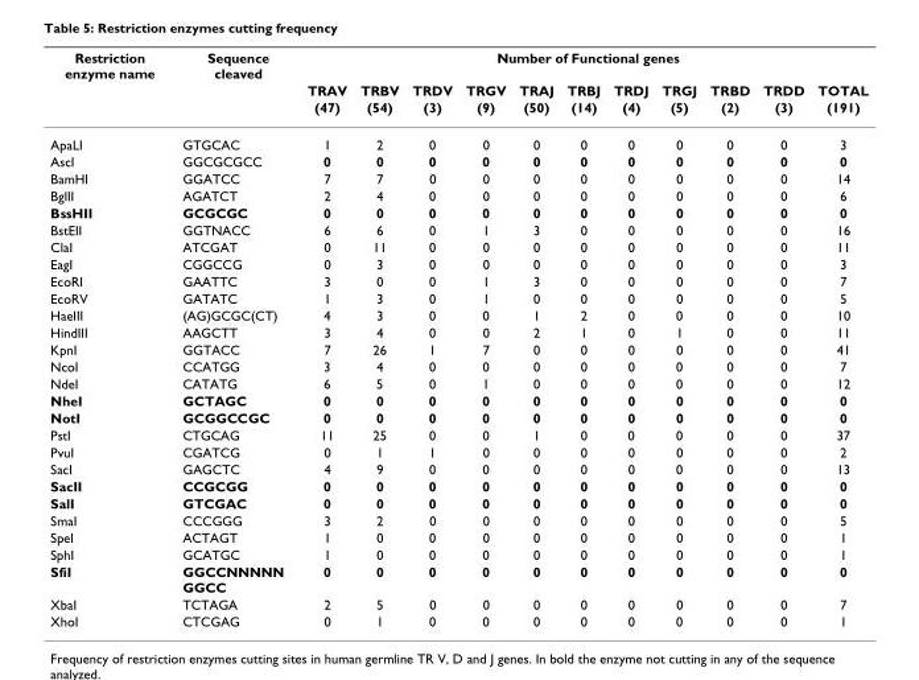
<table><thead><tr><td rowspan="3">Restriction enzyme name</td><td rowspan="3">Sequence cleaved</td><td colspan="11">Number of Functional genes</td></tr><tr><td rowspan="2">TRAV (47)</td><td rowspan="2">TRBV (54)</td><td rowspan="2">TRDV (3)</td><td rowspan="2">TRGV (9)</td><td rowspan="2">TRAJ (50)</td><td rowspan="2">TRBJ (14)</td><td rowspan="2">TRDJ (4)</td><td rowspan="2">TRGJ (5)</td><td rowspan="2">TRBD (2)</td><td rowspan="2">TRDD (3)</td><td rowspan="2">TOTAL (191)</td></tr><tr></tr></thead><tbody><tr><td>ApaLI</td><td>GTGCAC</td><td>1</td><td>2</td><td>0</td><td>0</td><td>0</td><td>0</td><td>0</td><td>0</td><td>0</td><td>0</td><td>3</td></tr><tr><td>AscI</td><td>GGCGCGCC</td><td>0</td><td>0</td><td>0</td><td>0</td><td>0</td><td>0</td><td>0</td><td>0</td><td>0</td><td>0</td><td>0</td></tr><tr><td>BamHI</td><td>GGATCC</td><td>7</td><td>7</td><td>0</td><td>0</td><td>0</td><td>0</td><td>0</td><td>0</td><td>0</td><td>0</td><td>14</td></tr><tr><td>BglII</td><td>AGATCT</td><td>2</td><td>4</td><td>0</td><td>0</td><td>0</td><td>0</td><td>0</td><td>0</td><td>0</td><td>0</td><td>6</td></tr><tr><td>BssHII</td><td>GCGCGC</td><td>0</td><td>0</td><td>0</td><td>0</td><td>0</td><td>0</td><td>0</td><td>0</td><td>0</td><td>0</td><td>0</td></tr><tr><td>BstEII</td><td>GGTNACC</td><td>6</td><td>6</td><td>0</td><td>1</td><td>3</td><td>0</td><td>0</td><td>0</td><td>0</td><td>0</td><td>16</td></tr><tr><td>ClaI</td><td>ATCGAT</td><td>0</td><td>11</td><td>0</td><td>0</td><td>0</td><td>0</td><td>0</td><td>0</td><td>0</td><td>0</td><td>11</td></tr><tr><td>EagI</td><td>CGGCCG</td><td>0</td><td>3</td><td>0</td><td>0</td><td>0</td><td>0</td><td>0</td><td>0</td><td>0</td><td>0</td><td>3</td></tr><tr><td>EcoRI</td><td>GAATTC</td><td>3</td><td>0</td><td>0</td><td>1</td><td>3</td><td>0</td><td>0</td><td>0</td><td>0</td><td>0</td><td>7</td></tr><tr><td>EcoRV</td><td>GATATC</td><td>1</td><td>3</td><td>0</td><td>1</td><td>0</td><td>0</td><td>0</td><td>0</td><td>0</td><td>0</td><td>5</td></tr><tr><td>HaeIII</td><td>(AG)GCGC(CT)</td><td>4</td><td>3</td><td>0</td><td>0</td><td>1</td><td>2</td><td>0</td><td>0</td><td>0</td><td>0</td><td>10</td></tr><tr><td>HindIII</td><td>AAGCTT</td><td>3</td><td>4</td><td>0</td><td>0</td><td>2</td><td>1</td><td>0</td><td>1</td><td>0</td><td>0</td><td>11</td></tr><tr><td>KpnI</td><td>GGTACC</td><td>7</td><td>26</td><td>1</td><td>7</td><td>0</td><td>0</td><td>0</td><td>0</td><td>0</td><td>0</td><td>41</td></tr><tr><td>NcoI</td><td>CCATGG</td><td>3</td><td>4</td><td>0</td><td>0</td><td>0</td><td>0</td><td>0</td><td>0</td><td>0</td><td>0</td><td>7</td></tr><tr><td>NdeI</td><td>CATATG</td><td>6</td><td>5</td><td>0</td><td>1</td><td>0</td><td>0</td><td>0</td><td>0</td><td>0</td><td>0</td><td>12</td></tr><tr><td>NheI</td><td>GCTAGC</td><td>0</td><td>0</td><td>0</td><td>0</td><td>0</td><td>0</td><td>0</td><td>0</td><td>0</td><td>0</td><td>0</td></tr><tr><td>NotI</td><td>GCGGCCGC</td><td>0</td><td>0</td><td>0</td><td>0</td><td>0</td><td>0</td><td>0</td><td>0</td><td>0</td><td>0</td><td>0</td></tr><tr><td>PstI</td><td>CTGCAG</td><td>11</td><td>25</td><td>0</td><td>0</td><td>1</td><td>0</td><td>0</td><td>0</td><td>0</td><td>0</td><td>37</td></tr><tr><td>PvuI</td><td>CGATCG</td><td>0</td><td>1</td><td>1</td><td>0</td><td>0</td><td>0</td><td>0</td><td>0</td><td>0</td><td>0</td><td>2</td></tr><tr><td>SacI</td><td>GAGCTC</td><td>4</td><td>9</td><td>0</td><td>0</td><td>0</td><td>0</td><td>0</td><td>0</td><td>0</td><td>0</td><td>13</td></tr><tr><td>SacII</td><td>CCGCGG</td><td>0</td><td>0</td><td>0</td><td>0</td><td>0</td><td>0</td><td>0</td><td>0</td><td>0</td><td>0</td><td>0</td></tr><tr><td>SalI</td><td>GTCGAC</td><td>0</td><td>0</td><td>0</td><td>0</td><td>0</td><td>0</td><td>0</td><td>0</td><td>0</td><td>0</td><td>0</td></tr><tr><td>SmaI</td><td>CCCGGG</td><td>3</td><td>2</td><td>0</td><td>0</td><td>0</td><td>0</td><td>0</td><td>0</td><td>0</td><td>0</td><td>5</td></tr><tr><td>SpeI</td><td>ACTAGT</td><td>1</td><td>0</td><td>0</td><td>0</td><td>0</td><td>0</td><td>0</td><td>0</td><td>0</td><td>0</td><td>1</td></tr><tr><td>SphI</td><td>GCATGC</td><td>1</td><td>0</td><td>0</td><td>0</td><td>0</td><td>0</td><td>0</td><td>0</td><td>0</td><td>0</td><td>1</td></tr><tr><td>SfiI</td><td>GGCCNNNNN GGCC</td><td>0</td><td>0</td><td>0</td><td>0</td><td>0</td><td>0</td><td>0</td><td>0</td><td>0</td><td>0</td><td>0</td></tr><tr><td>XbaI</td><td>TCTAGA</td><td>2</td><td>5</td><td>0</td><td>0</td><td>0</td><td>0</td><td>0</td><td>0</td><td>0</td><td>0</td><td>7</td></tr><tr><td>XhoI</td><td>CTCGAG</td><td>0</td><td>1</td><td>0</td><td>0</td><td>0</td><td>0</td><td>0</td><td>0</td><td>0</td><td>0</td><td>1</td></tr></tbody></table>